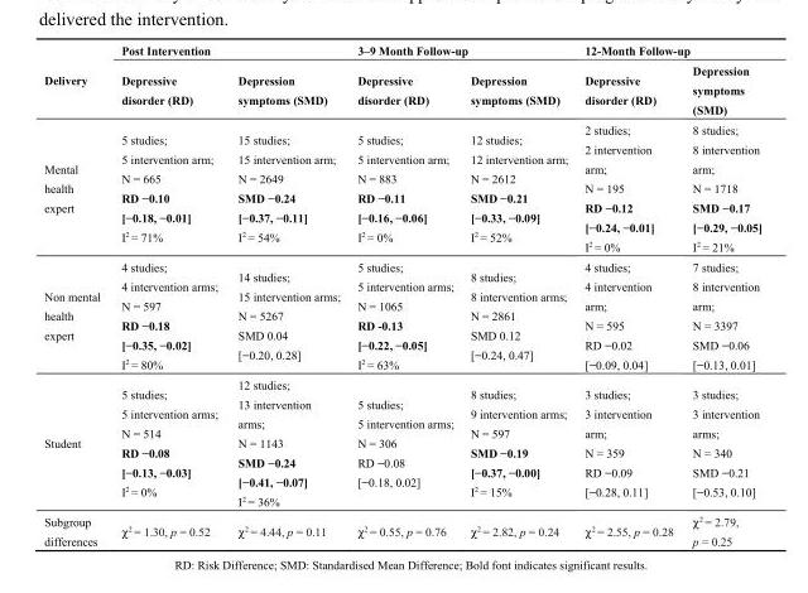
<table><thead><tr><td rowspan="2">Delivery</td><td colspan="2">Post Intervention</td><td colspan="2">3–9 Month Follow-up</td><td colspan="2">12-Month Follow-up</td></tr><tr><td>Depressive disorder (RD)</td><td>Depression symptoms (SMD)</td><td>Depressive disorder (RD)</td><td>Depression symptoms (SMD)</td><td>Depressive disorder (RD)</td><td>Depression symptoms (SMD)</td></tr></thead><tbody><tr><td>Mental health expert</td><td>5 studies; 5 intervention arm; N = 665 RD −0.10 [−0.18, −0.01] I<sup>2</sup> = 71%</td><td>15 studies; 15 intervention arm; N = 2649 SMD −0.24 [−0.37, −0.11] I<sup>2</sup> = 54%</td><td>5 studies; 5 intervention arm; N = 883 RD −0.11 [−0.16, −0.06] I<sup>2</sup> = 0%</td><td>12 studies; 12 intervention arm; N = 2612 SMD −0.21 [−0.33, −0.09] I<sup>2</sup> = 52%</td><td>2 studies; 2 intervention arm; N = 195 RD −0.12 [−0.24, −0.01] I<sup>2</sup> = 0%</td><td>8 studies; 8 intervention arm; N = 1718 SMD −0.17 [−0.29, −0.05] I<sup>2</sup> = 21%</td></tr><tr><td>Non mental health expert</td><td>4 studies; 4 intervention arms; N = 597 RD −0.18 [−0.35, −0.02] I<sup>2</sup> = 80%</td><td>14 studies; 15 intervention arms; N = 5267 SMD 0.04 [−0.20, 0.28]</td><td>5 studies; 5 intervention arms; N = 1065 RD -0.13 [−0.22, −0.05] I<sup>2</sup> = 63%</td><td>8 studies; 8 intervention arms; N = 2861 SMD 0.12 [−0.24, 0.47]</td><td>4 studies; 4 intervention arm; N = 595 RD −0.02 [−0.09, 0.04]</td><td>7 studies; 8 intervention arm; N = 3397 SMD −0.06 [−0.13, 0.01]</td></tr><tr><td>Student</td><td>5 studies; 5 intervention arms; N = 514 RD −0.08 [−0.13, −0.03] I<sup>2</sup> = 0%</td><td>12 studies; 13 intervention arms; N = 1143 SMD −0.24 [−0.41, −0.07] I<sup>2</sup> = 36%</td><td>5 studies; 5 intervention arms; N = 306 RD −0.08 [−0.18, 0.02]</td><td>8 studies; 9 intervention arms; N = 597 SMD −0.19 [−0.37, −0.00] I<sup>2</sup> = 15%</td><td>3 studies; 3 intervention arm; N = 359 RD −0.09 [−0.28, 0.11]</td><td>3 studies; 3 intervention arms; N = 340 SMD −0.21 [−0.53, 0.10]</td></tr><tr><td>Subgroup differences</td><td>χ<sup>2</sup> = 1.30, p = 0.52</td><td>χ<sup>2</sup> = 4.44, p = 0.11</td><td>χ<sup>2</sup> = 0.55, p = 0.76</td><td>χ<sup>2</sup> = 2.82, p = 0.24</td><td>χ<sup>2</sup> = 2.55, p = 0.28</td><td>χ<sup>2</sup> = 2.79, p = 0.25</td></tr></tbody></table>